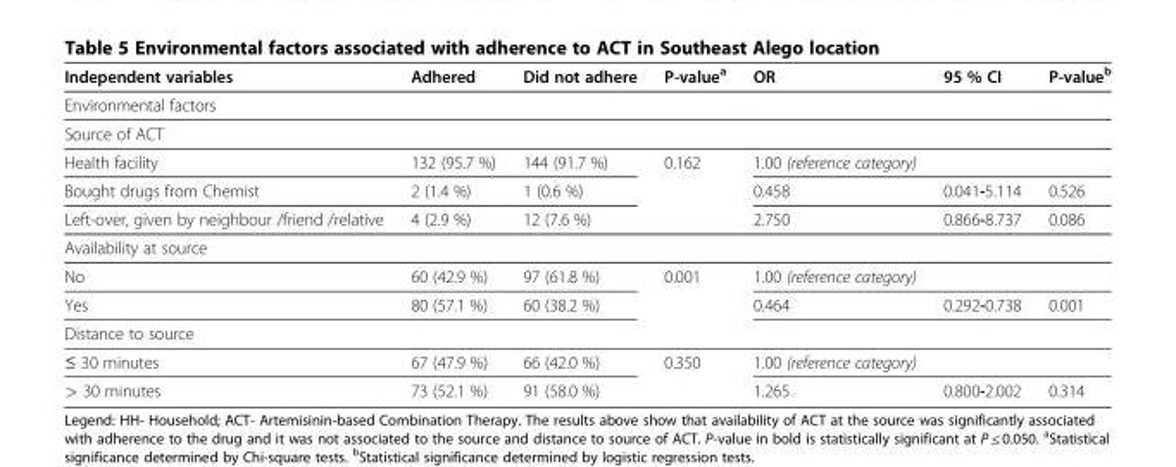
<table><thead><tr><td>Independent variables</td><td>Adhered</td><td>Did not adhere</td><td>P-value<sup>a</sup></td><td>OR</td><td>95 % CI</td><td>P-value<sup>b</sup></td></tr></thead><tbody><tr><td colspan="7">Environmental factors</td></tr><tr><td colspan="7">Source of ACT</td></tr><tr><td>Health facility</td><td>132 (95.7 %)</td><td>144 (91.7 %)</td><td>0.162</td><td>1.00 (reference category)</td><td></td><td></td></tr><tr><td>Bought drugs from Chemist</td><td>2 (1.4 %)</td><td>1 (0.6 %)</td><td></td><td>0.458</td><td>0.041-5.114</td><td>0.526</td></tr><tr><td>Left-over, given by neighbour /friend /relative</td><td>4 (2.9 %)</td><td>12 (7.6 %)</td><td></td><td>2.750</td><td>0.866-8.737</td><td>0.086</td></tr><tr><td colspan="7">Availability at source</td></tr><tr><td>No</td><td>60 (42.9 %)</td><td>97 (61.8 %)</td><td>0.001</td><td>1.00 (reference category)</td><td></td><td></td></tr><tr><td>Yes</td><td>80 (57.1 %)</td><td>60 (38.2 %)</td><td></td><td>0.464</td><td>0.292-0.738</td><td>0.001</td></tr><tr><td colspan="7">Distance to source</td></tr><tr><td>≤ 30 minutes</td><td>67 (47.9 %)</td><td>66 (42.0 %)</td><td>0.350</td><td>1.00 (reference category)</td><td></td><td></td></tr><tr><td>&gt; 30 minutes</td><td>73 (52.1 %)</td><td>91 (58.0 %)</td><td></td><td>1.265</td><td>0.800-2.002</td><td>0.314</td></tr></tbody></table>